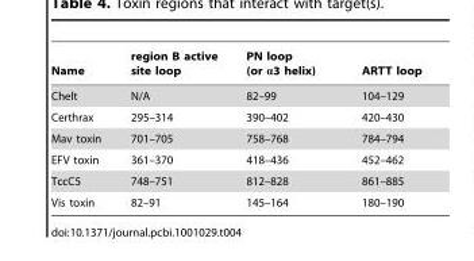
<table><thead><tr><td>Name</td><td>region B active site loop</td><td>PN loop (or α3 helix)</td><td>ARTT loop</td></tr></thead><tbody><tr><td>Chelt</td><td>N/A</td><td>82–99</td><td>104–129</td></tr><tr><td>Certhrax</td><td>295–314</td><td>390–402</td><td>420–430</td></tr><tr><td>Mav toxin</td><td>701–705</td><td>758–768</td><td>784–794</td></tr><tr><td>EFV toxin</td><td>361–370</td><td>418–436</td><td>452–462</td></tr><tr><td>TccC5</td><td>748–751</td><td>812–828</td><td>861–885</td></tr><tr><td>Vis toxin</td><td>82–91</td><td>145–164</td><td>180–190</td></tr></tbody></table>